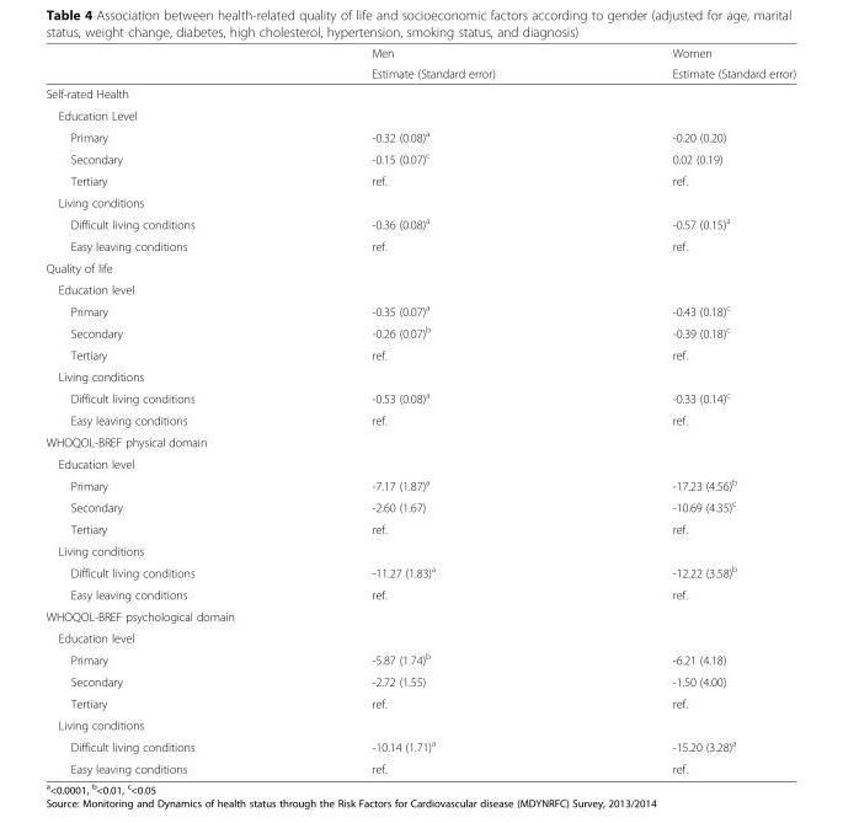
<table><thead><tr><td rowspan="2"></td><td rowspan="2">Men Estimate (Standard error)</td><td rowspan="2">Women Estimate (Standard error)</td></tr><tr></tr></thead><tbody><tr><td colspan="3">Self-rated Health</td></tr><tr><td colspan="3">Education Level</td></tr><tr><td>Primary</td><td>-0.32 (0.08)<sup>a</sup></td><td>-0.20 (0.20)</td></tr><tr><td>Secondary</td><td>-0.15 (0.07)<sup>c</sup></td><td>0.02 (0.19)</td></tr><tr><td>Tertiary</td><td>ref.</td><td>ref.</td></tr><tr><td colspan="3">Living conditions</td></tr><tr><td>Difficult living conditions</td><td>-0.36 (0.08)<sup>a</sup></td><td>-0.57 (0.15)<sup>a</sup></td></tr><tr><td>Easy leaving conditions</td><td>ref.</td><td>ref.</td></tr><tr><td colspan="3">Quality of life</td></tr><tr><td colspan="3">Education level</td></tr><tr><td>Primary</td><td>-0.35 (0.07)<sup>a</sup></td><td>-0.43 (0.18)<sup>c</sup></td></tr><tr><td>Secondary</td><td>-0.26 (0.07)<sup>b</sup></td><td>-0.39 (0.18)<sup>c</sup></td></tr><tr><td>Tertiary</td><td>ref.</td><td>ref.</td></tr><tr><td colspan="3">Living conditions</td></tr><tr><td>Difficult living conditions</td><td>-0.53 (0.08)<sup>a</sup></td><td>-0.33 (0.14)<sup>c</sup></td></tr><tr><td>Easy leaving conditions</td><td>ref.</td><td>ref.</td></tr><tr><td colspan="3">WHOQOL-BREF physical domain</td></tr><tr><td colspan="3">Education level</td></tr><tr><td>Primary</td><td>-7.17 (1.87)<sup>a</sup></td><td>-17.23 (4.56)<sup>b</sup></td></tr><tr><td>Secondary</td><td>-2.60 (1.67)</td><td>-10.69 (4.35)<sup>c</sup></td></tr><tr><td>Tertiary</td><td>ref.</td><td>ref.</td></tr><tr><td colspan="3">Living conditions</td></tr><tr><td>Difficult living conditions</td><td>-11.27 (1.83)<sup>a</sup></td><td>-12.22 (3.58)<sup>b</sup></td></tr><tr><td>Easy leaving conditions</td><td>ref.</td><td>ref.</td></tr><tr><td colspan="3">WHOQOL-BREF psychological domain</td></tr><tr><td colspan="3">Education level</td></tr><tr><td>Primary</td><td>-5.87 (1.74)<sup>b</sup></td><td>-6.21 (4.18)</td></tr><tr><td>Secondary</td><td>-2.72 (1.55)</td><td>-1.50 (4.00)</td></tr><tr><td>Tertiary</td><td>ref.</td><td>ref.</td></tr><tr><td colspan="3">Living conditions</td></tr><tr><td>Difficult living conditions</td><td>-10.14 (1.71)<sup>a</sup></td><td>-15.20 (3.28)<sup>a</sup></td></tr><tr><td>Easy leaving conditions</td><td>ref.</td><td>ref.</td></tr></tbody></table>